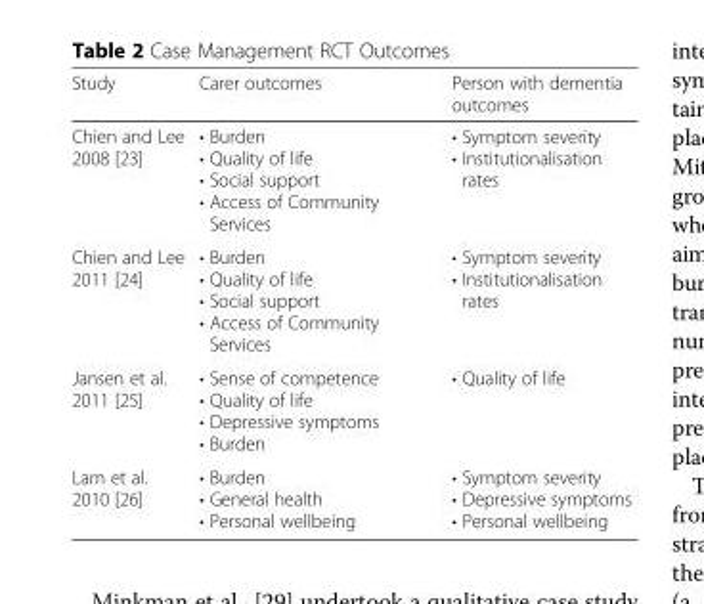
<table><thead><tr><td>Study</td><td>Carer outcomes</td><td>Person with dementia outcomes</td></tr></thead><tbody><tr><td>Chien and Lee 2008 [23]</td><td>• Burden • Quality of life • Social support • Access of Community Services</td><td>• Symptom severity • Institutionalisation rates</td></tr><tr><td>Chien and Lee 2011 [24]</td><td>• Burden • Quality of life • Social support • Access of Community Services</td><td>• Symptom severity • Institutionalisation rates</td></tr><tr><td>Jansen et al. 2011 [25]</td><td>• Sense of competence • Quality of life • Depressive symptoms • Burden</td><td>• Quality of life</td></tr><tr><td>Lam et al. 2010 [26]</td><td>• Burden • General health • Personal wellbeing</td><td>• Symptom severity • Depressive symptoms • Personal wellbeing</td></tr></tbody></table>